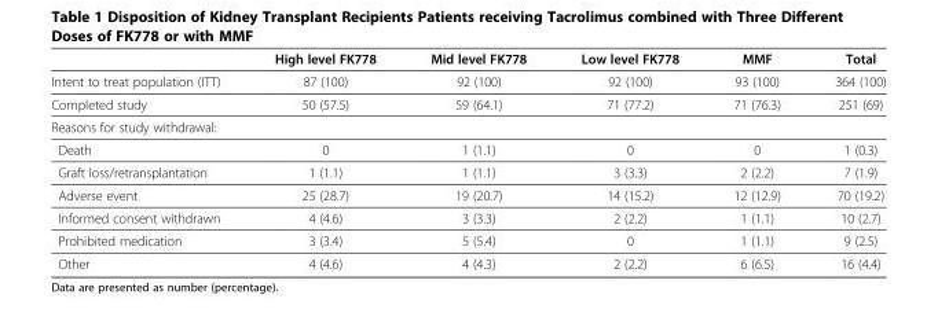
<table><thead><tr><td></td><td>High level FK778</td><td>Mid level FK778</td><td>Low level FK778</td><td>MMF</td><td>Total</td></tr></thead><tbody><tr><td>Intent to treat population (ITT)</td><td>87 (100)</td><td>92 (100)</td><td>92 (100)</td><td>93 (100)</td><td>364 (100)</td></tr><tr><td>Completed study</td><td>50 (57.5)</td><td>59 (64.1)</td><td>71 (77.2)</td><td>71 (76.3)</td><td>251 (69)</td></tr><tr><td colspan="6">Reasons for study withdrawal:</td></tr><tr><td>Death</td><td>0</td><td>1 (1.1)</td><td>0</td><td>0</td><td>1 (0.3)</td></tr><tr><td>Graft loss/retransplantation</td><td>1 (1.1)</td><td>1 (1.1)</td><td>3 (3.3)</td><td>2 (2.2)</td><td>7 (1.9)</td></tr><tr><td>Adverse event</td><td>25 (28.7)</td><td>19 (20.7)</td><td>14 (15.2)</td><td>12 (12.9)</td><td>70 (19.2)</td></tr><tr><td>Informed consent withdrawn</td><td>4 (4.6)</td><td>3 (3.3)</td><td>2 (2.2)</td><td>1 (1.1)</td><td>10 (2.7)</td></tr><tr><td>Prohibited medication</td><td>3 (3.4)</td><td>5 (5.4)</td><td>0</td><td>1 (1.1)</td><td>9 (2.5)</td></tr><tr><td>Other</td><td>4 (4.6)</td><td>4 (4.3)</td><td>2 (2.2)</td><td>6 (6.5)</td><td>16 (4.4)</td></tr></tbody></table>